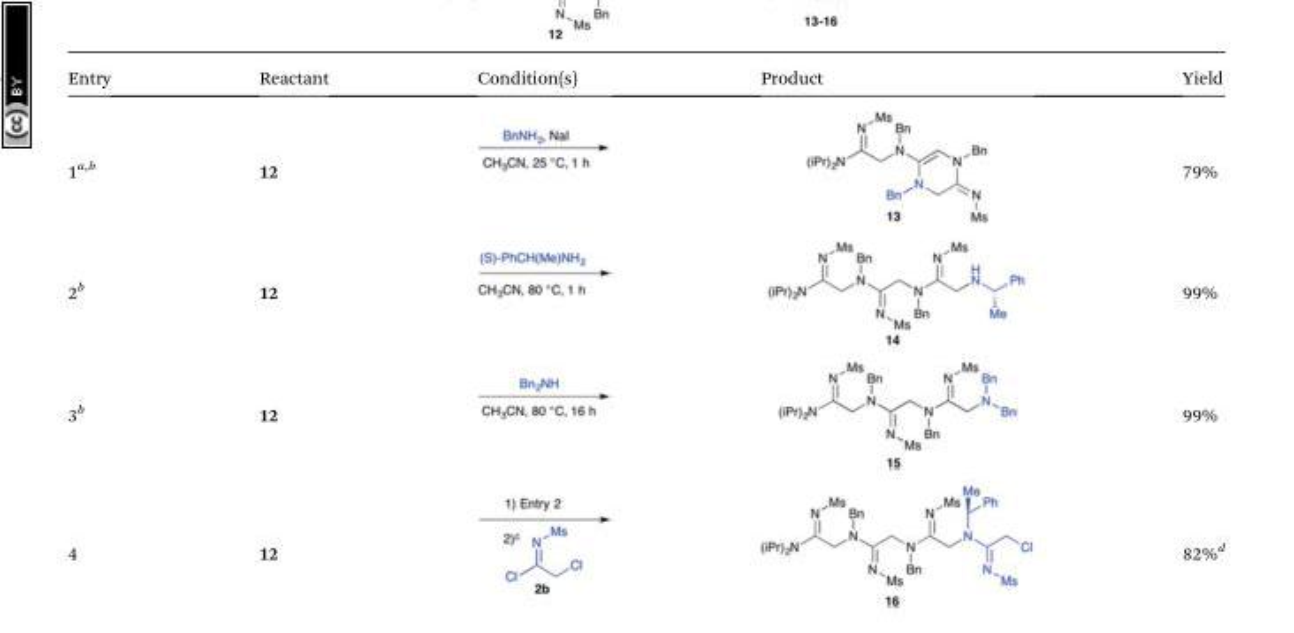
<table><thead><tr><td>Entry</td><td>Reactant</td><td>Condition(s)</td><td>Product</td><td>Yield</td></tr></thead><tbody><tr><td>1<sup>a,b</sup></td><td>12</td><td></td><td></td><td>79%</td></tr><tr><td>2<sup>b</sup></td><td>12</td><td></td><td></td><td>99%</td></tr><tr><td>3<sup>b</sup></td><td>12</td><td></td><td></td><td>99%</td></tr><tr><td>4</td><td>12</td><td></td><td></td><td>82%<sup>d</sup></td></tr></tbody></table>